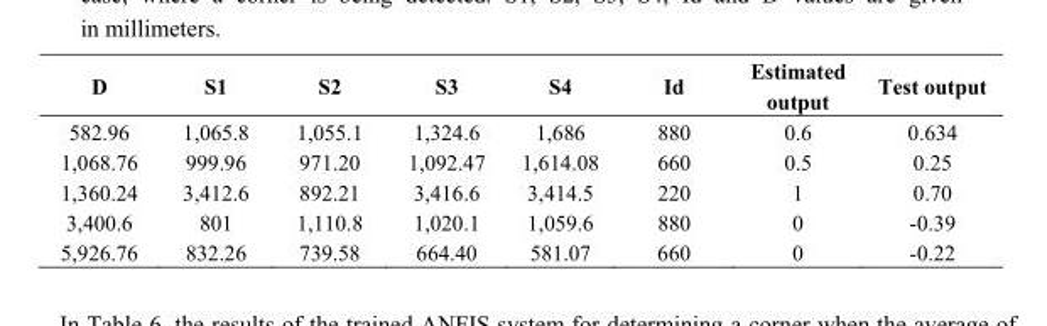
<table><thead><tr><td>D</td><td>S1</td><td>S2</td><td>S3</td><td>S4</td><td>Id</td><td>Estimated output</td><td>Test output</td></tr></thead><tbody><tr><td>582.96</td><td>1,065.8</td><td>1,055.1</td><td>1,324.6</td><td>1,686</td><td>880</td><td>0.6</td><td>0.634</td></tr><tr><td>1,068.76</td><td>999.96</td><td>971.20</td><td>1,092.47</td><td>1,614.08</td><td>660</td><td>0.5</td><td>0.25</td></tr><tr><td>1,360.24</td><td>3,412.6</td><td>892.21</td><td>3,416.6</td><td>3,414.5</td><td>220</td><td>1</td><td>0.70</td></tr><tr><td>3,400.6</td><td>801</td><td>1,110.8</td><td>1,020.1</td><td>1,059.6</td><td>880</td><td>0</td><td>-0.39</td></tr><tr><td>5,926.76</td><td>832.26</td><td>739.58</td><td>664.40</td><td>581.07</td><td>660</td><td>0</td><td>-0.22</td></tr></tbody></table>